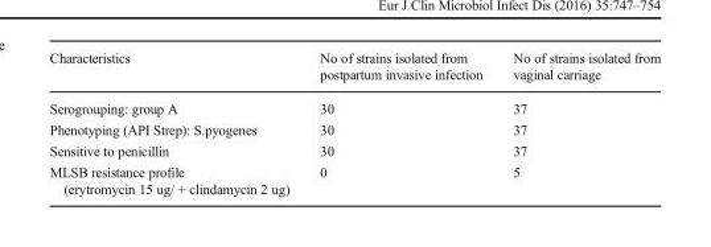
<table><thead><tr><td>Characteristics</td><td>No of strains isolated from postpartum invasive infection</td><td>No of strains isolated from vaginal carriage</td></tr></thead><tbody><tr><td>Serogrouping: group A</td><td>30</td><td>37</td></tr><tr><td>Phenotyping (API Strep): S.pyogenes</td><td>30</td><td>37</td></tr><tr><td>Sensitive to penicillin</td><td>30</td><td>37</td></tr><tr><td>MLSB resistance profile (erytromycin 15 ug/ + clindamycin 2 ug)</td><td>0</td><td>5</td></tr></tbody></table>